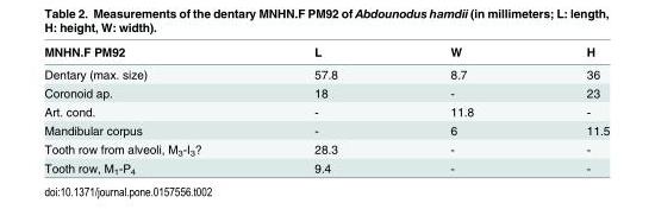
<table><thead><tr><td>MNHN.F PM92</td><td>L</td><td>W</td><td>H</td></tr></thead><tbody><tr><td>Dentary (max. size)</td><td>57.8</td><td>8.7</td><td>36</td></tr><tr><td>Coronoid ap.</td><td>18</td><td>-</td><td>23</td></tr><tr><td>Art. cond.</td><td>-</td><td>11.8</td><td>-</td></tr><tr><td>Mandibular corpus</td><td>-</td><td>6</td><td>11.5</td></tr><tr><td>Tooth row from alveoli, M<sub>3</sub>-I<sub>3</sub>?</td><td>28.3</td><td>-</td><td>-</td></tr><tr><td>Tooth row, M<sub>1</sub>-P<sub>4</sub></td><td>9.4</td><td>-</td><td>-</td></tr></tbody></table>